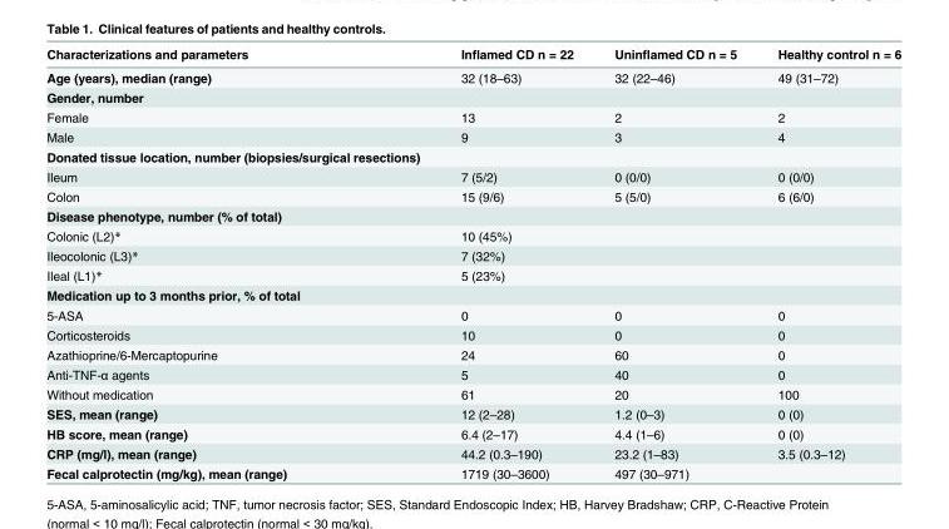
<table><thead><tr><td>Characterizations and parameters</td><td>Inflamed CD n = 22</td><td>Uninflamed CD n = 5</td><td>Healthy control n = 6</td></tr></thead><tbody><tr><td>Age (years), median (range)</td><td>32 (18–63)</td><td>32 (22–46)</td><td>49 (31–72)</td></tr><tr><td colspan="4">Gender, number</td></tr><tr><td>Female</td><td>13</td><td>2</td><td>2</td></tr><tr><td>Male</td><td>9</td><td>3</td><td>4</td></tr><tr><td colspan="4">Donated tissue location, number (biopsies/surgical resections)</td></tr><tr><td>Ileum</td><td>7 (5/2)</td><td>0 (0/0)</td><td>0 (0/0)</td></tr><tr><td>Colon</td><td>15 (9/6)</td><td>5 (5/0)</td><td>6 (6/0)</td></tr><tr><td colspan="4">Disease phenotype, number (% of total)</td></tr><tr><td>Colonic (L2)*</td><td>10 (45%)</td><td></td><td></td></tr><tr><td>Ileocolonic (L3)*</td><td>7 (32%)</td><td></td><td></td></tr><tr><td>Ileal (L1)*</td><td>5 (23%)</td><td></td><td></td></tr><tr><td colspan="4">Medication up to 3 months prior, % of total</td></tr><tr><td>5-ASA</td><td>0</td><td>0</td><td>0</td></tr><tr><td>Corticosteroids</td><td>10</td><td>0</td><td>0</td></tr><tr><td>Azathioprine/6-Mercaptopurine</td><td>24</td><td>60</td><td>0</td></tr><tr><td>Anti-TNF-α agents</td><td>5</td><td>40</td><td>0</td></tr><tr><td>Without medication</td><td>61</td><td>20</td><td>100</td></tr><tr><td>SES, mean (range)</td><td>12 (2–28)</td><td>1.2 (0–3)</td><td>0 (0)</td></tr><tr><td>HB score, mean (range)</td><td>6.4 (2–17)</td><td>4.4 (1–6)</td><td>0 (0)</td></tr><tr><td>CRP (mg/l), mean (range)</td><td>44.2 (0.3–190)</td><td>23.2 (1–83)</td><td>3.5 (0.3–12)</td></tr><tr><td>Fecal calprotectin (mg/kg), mean (range)</td><td>1719 (30–3600)</td><td>497 (30–971)</td><td></td></tr></tbody></table>